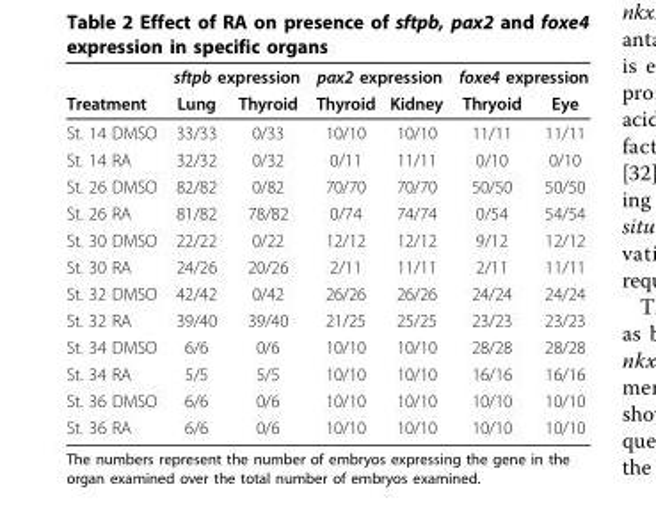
<table><thead><tr><td rowspan="2">Treatment</td><td colspan="2">sftpb expression</td><td colspan="2">pax2 expression</td><td colspan="2">foxe4 expression</td></tr><tr><td>Lung</td><td>Thyroid</td><td>Thyroid</td><td>Kidney</td><td>Thryoid</td><td>Eye</td></tr></thead><tbody><tr><td>St. 14 DMSO</td><td>33/33</td><td>0/33</td><td>10/10</td><td>10/10</td><td>11/11</td><td>11/11</td></tr><tr><td>St. 14 RA</td><td>32/32</td><td>0/32</td><td>0/11</td><td>11/11</td><td>0/10</td><td>0/10</td></tr><tr><td>St. 26 DMSO</td><td>82/82</td><td>0/82</td><td>70/70</td><td>70/70</td><td>50/50</td><td>50/50</td></tr><tr><td>St. 26 RA</td><td>81/82</td><td>78/82</td><td>0/74</td><td>74/74</td><td>0/54</td><td>54/54</td></tr><tr><td>St. 30 DMSO</td><td>22/22</td><td>0/22</td><td>12/12</td><td>12/12</td><td>9/12</td><td>12/12</td></tr><tr><td>St. 30 RA</td><td>24/26</td><td>20/26</td><td>2/11</td><td>11/11</td><td>2/11</td><td>11/11</td></tr><tr><td>St. 32 DMSO</td><td>42/42</td><td>0/42</td><td>26/26</td><td>26/26</td><td>24/24</td><td>24/24</td></tr><tr><td>St. 32 RA</td><td>39/40</td><td>39/40</td><td>21/25</td><td>25/25</td><td>23/23</td><td>23/23</td></tr><tr><td>St. 34 DMSO</td><td>6/6</td><td>0/6</td><td>10/10</td><td>10/10</td><td>28/28</td><td>28/28</td></tr><tr><td>St. 34 RA</td><td>5/5</td><td>5/5</td><td>10/10</td><td>10/10</td><td>16/16</td><td>16/16</td></tr><tr><td>St. 36 DMSO</td><td>6/6</td><td>0/6</td><td>10/10</td><td>10/10</td><td>10/10</td><td>10/10</td></tr><tr><td>St. 36 RA</td><td>6/6</td><td>0/6</td><td>10/10</td><td>10/10</td><td>10/10</td><td>10/10</td></tr></tbody></table>